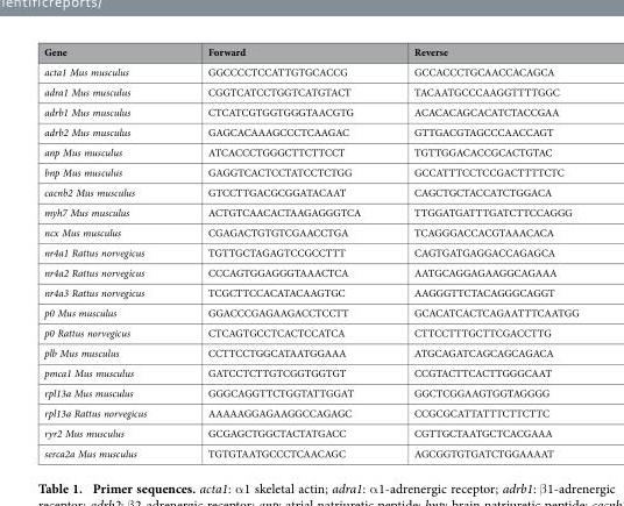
<table><thead><tr><td>Gene</td><td>Forward</td><td>Reverse</td></tr></thead><tbody><tr><td>acta1 Mus musculus</td><td>GGCCCCTCCATTGTGCACCG</td><td>GCCACCCTGCAACCACAGCA</td></tr><tr><td>adra1 Mus musculus</td><td>CGGTCATCCTGGTCATGTACT</td><td>TACAATGCCCAAGGTTTTGGC</td></tr><tr><td>adrb1 Mus musculus</td><td>CTCATCGTGGTGGGTAACGTG</td><td>ACACACAGCACATCTACCGAA</td></tr><tr><td>adrb2 Mus musculus</td><td>GAGCACAAAGCCCTCAAGAC</td><td>GTTGACGTAGCCCAACCAGT</td></tr><tr><td>anp Mus musculus</td><td>ATCACCCTGGGCTTCTTCCT</td><td>TGTTGGACACCGCACTGTAC</td></tr><tr><td>bnp Mus musculus</td><td>GAGGTCACTCCTATCCTCTGG</td><td>GCCATTTCCTCCGACTTTTCTC</td></tr><tr><td>cacnb2 Mus musculus</td><td>GTCCTTGACGCGGATACAAT</td><td>CAGCTGCTACCATCTGGACA</td></tr><tr><td>myh7 Mus musculus</td><td>ACTGTCAACACTAAGAGGGTCA</td><td>TTGGATGATTTGATCTTCCAGGG</td></tr><tr><td>ncx Mus musculus</td><td>CGAGACTGTGTCGAACCTGA</td><td>TCAGGGACCACGTAAACACA</td></tr><tr><td>nr4a1 Rattus norvegicus</td><td>TGTTGCTAGAGTCCGCCTTT</td><td>CAGTGATGAGGACCAGAGCA</td></tr><tr><td>nr4a2 Rattus norvegicus</td><td>CCCAGTGGAGGGTAAACTCA</td><td>AATGCAGGAGAAGGCAGAAA</td></tr><tr><td>nr4a3 Rattus norvegicus</td><td>TCGCTTCCACATACAAGTGC</td><td>AAGGGTTCTACAGGGCAGGT</td></tr><tr><td>p0 Mus musculus</td><td>GGACCCGAGAAGACCTCCTT</td><td>GCACATCACTCAGAATTTCAATGG</td></tr><tr><td>p0 Rattus norvegicus</td><td>CTCAGTGCCTCACTCCATCA</td><td>CTTCCTTTGCTTCGACCTTG</td></tr><tr><td>plb Mus musculus</td><td>CCTTCCTGGCATAATGGAAA</td><td>ATGCAGATCAGCAGCAGACA</td></tr><tr><td>pmca1 Mus musculus</td><td>GATCCTCTTGTCGGTGGTGT</td><td>CCGTACTTCACTTGGGCAAT</td></tr><tr><td>rpl13a Mus musculus</td><td>GGGCAGGTTCTGGTATTGGAT</td><td>GGCTCGGAAGTGGTAGGGG</td></tr><tr><td>rpl13a Rattus norvegicus</td><td>AAAAAGGAGAAGGCCAGAGC</td><td>CCGCGCATTATTTCTTCTTC</td></tr><tr><td>ryr2 Mus musculus</td><td>GCGAGCTGGCTACTATGACC</td><td>CGTTGCTAATGCTCACGAAA</td></tr><tr><td>serca2a Mus musculus</td><td>TGTGTAATGCCCTCAACAGC</td><td>AGCGGTGTGATCTGGAAAAT</td></tr></tbody></table>